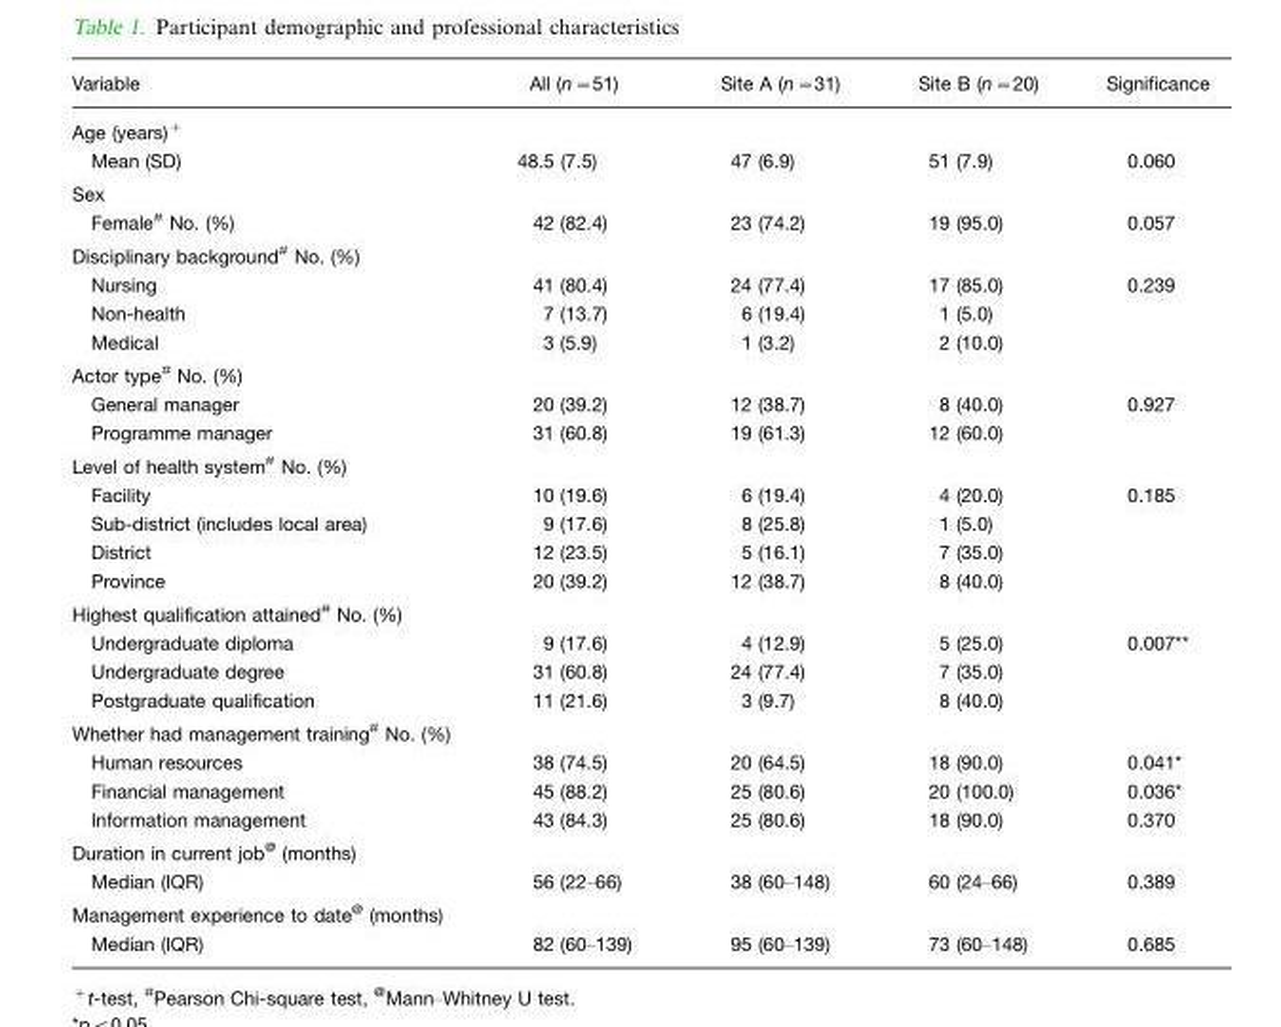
<table><thead><tr><td>Variable</td><td>All (n=51)</td><td>Site A (n=31)</td><td>Site B (n=20)</td><td>Significance</td></tr></thead><tbody><tr><td colspan="5">Age (years)+</td></tr><tr><td>Mean (SD)</td><td>48.5 (7.5)</td><td>47 (6.9)</td><td>51 (7.9)</td><td>0.060</td></tr><tr><td colspan="5">Sex</td></tr><tr><td>Female# No. (%)</td><td>42 (82.4)</td><td>23 (74.2)</td><td>19 (95.0)</td><td>0.057</td></tr><tr><td colspan="5">Disciplinary background# No. (%)</td></tr><tr><td>Nursing</td><td>41 (80.4)</td><td>24 (77.4)</td><td>17 (85.0)</td><td>0.239</td></tr><tr><td>Non-health</td><td>7 (13.7)</td><td>6 (19.4)</td><td>1 (5.0)</td><td></td></tr><tr><td>Medical</td><td>3 (5.9)</td><td>1 (3.2)</td><td>2 (10.0)</td><td></td></tr><tr><td colspan="5">Actor type# No. (%)</td></tr><tr><td>General manager</td><td>20 (39.2)</td><td>12 (38.7)</td><td>8 (40.0)</td><td>0.927</td></tr><tr><td>Programme manager</td><td>31 (60.8)</td><td>19 (61.3)</td><td>12 (60.0)</td><td></td></tr><tr><td colspan="5">Level of health system# No. (%)</td></tr><tr><td>Facility</td><td>10 (19.6)</td><td>6 (19.4)</td><td>4 (20.0)</td><td>0.185</td></tr><tr><td>Sub-district (includes local area)</td><td>9 (17.6)</td><td>8 (25.8)</td><td>1 (5.0)</td><td></td></tr><tr><td>District</td><td>12 (23.5)</td><td>5 (16.1)</td><td>7 (35.0)</td><td></td></tr><tr><td>Province</td><td>20 (39.2)</td><td>12 (38.7)</td><td>8 (40.0)</td><td></td></tr><tr><td colspan="5">Highest qualification attained# No. (%)</td></tr><tr><td>Undergraduate diploma</td><td>9 (17.6)</td><td>4 (12.9)</td><td>5 (25.0)</td><td>0.007**</td></tr><tr><td>Undergraduate degree</td><td>31 (60.8)</td><td>24 (77.4)</td><td>7 (35.0)</td><td></td></tr><tr><td>Postgraduate qualification</td><td>11 (21.6)</td><td>3 (9.7)</td><td>8 (40.0)</td><td></td></tr><tr><td colspan="5">Whether had management training# No. (%)</td></tr><tr><td>Human resources</td><td>38 (74.5)</td><td>20 (64.5)</td><td>18 (90.0)</td><td>0.041*</td></tr><tr><td>Financial management</td><td>45 (88.2)</td><td>25 (80.6)</td><td>20 (100.0)</td><td>0.036*</td></tr><tr><td>Information management</td><td>43 (84.3)</td><td>25 (80.6)</td><td>18 (90.0)</td><td>0.370</td></tr><tr><td colspan="5">Duration in current job@ (months)</td></tr><tr><td>Median (IQR)</td><td>56 (22–66)</td><td>38 (60–148)</td><td>60 (24–66)</td><td>0.389</td></tr><tr><td colspan="5">Management experience to date@ (months)</td></tr><tr><td>Median (IQR)</td><td>82 (60–139)</td><td>95 (60–139)</td><td>73 (60–148)</td><td>0.685</td></tr></tbody></table>